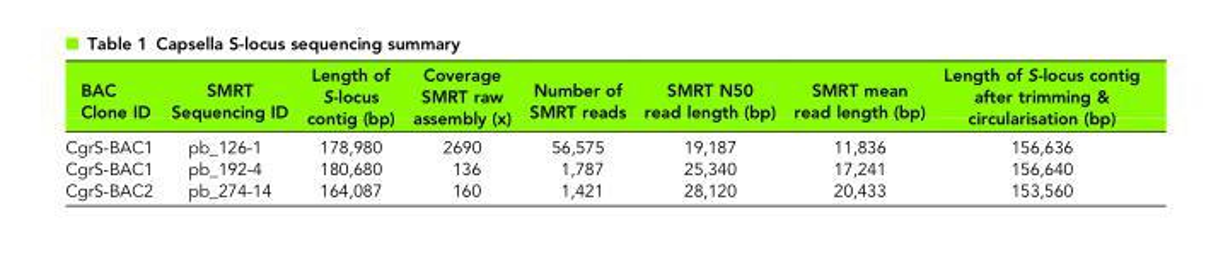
<table><thead><tr><td>BAC Clone ID</td><td>SMRT Sequencing ID</td><td>Length of S-locus contig (bp)</td><td>Coverage SMRT raw assembly (x)</td><td>Number of SMRT reads</td><td>SMRT N50 read length (bp)</td><td>SMRT mean read length (bp)</td><td>Length of S-locus contig after trimming &amp; circularisation (bp)</td></tr></thead><tbody><tr><td>CgrS-BAC1</td><td>pb_126-1</td><td>178,980</td><td>2690</td><td>56,575</td><td>19,187</td><td>11,836</td><td>156,636</td></tr><tr><td>CgrS-BAC1</td><td>pb_192-4</td><td>180,680</td><td>136</td><td>1,787</td><td>25,340</td><td>17,241</td><td>156,640</td></tr><tr><td>CgrS-BAC2</td><td>pb_274-14</td><td>164,087</td><td>160</td><td>1,421</td><td>28,120</td><td>20,433</td><td>153,560</td></tr></tbody></table>